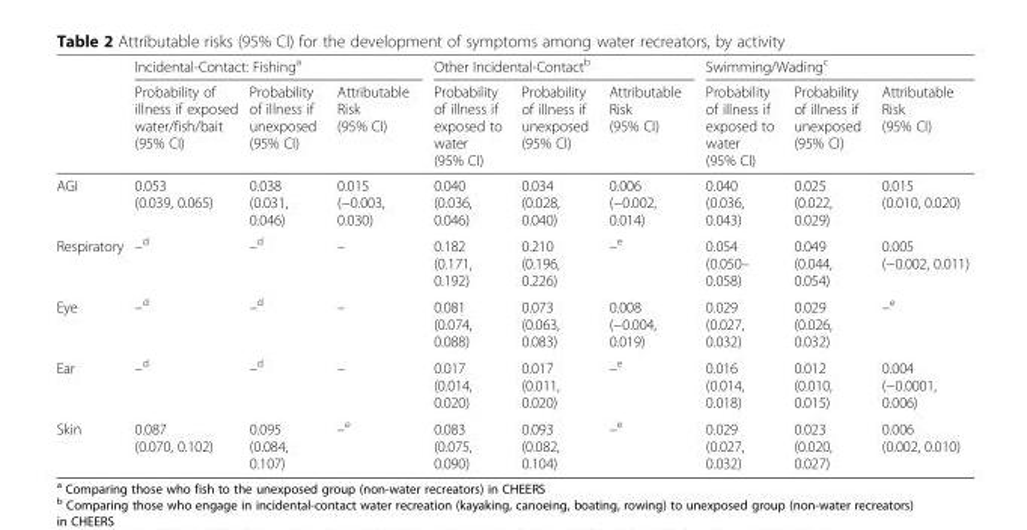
<table><thead><tr><td rowspan="2"></td><td colspan="3">Incidental-Contact: Fishing<sup>a</sup></td><td colspan="3">Other Incidental-Contact<sup>b</sup></td><td colspan="3">Swimming/Wading<sup>c</sup></td></tr><tr><td>Probability of illness if exposed water/fish/bait (95% CI)</td><td>Probability of illness if unexposed (95% CI)</td><td>Attributable Risk (95% CI)</td><td>Probability of illness if exposed to water (95% CI)</td><td>Probability of illness if unexposed (95% CI)</td><td>Attributable Risk (95% CI)</td><td>Probability of illness if exposed to water (95% CI)</td><td>Probability of illness if unexposed (95% CI)</td><td>Attributable Risk (95% CI)</td></tr></thead><tbody><tr><td>AGI</td><td>0.053 (0.039, 0.065)</td><td>0.038 (0.031, 0.046)</td><td>0.015 (−0.003, 0.030)</td><td>0.040 (0.036, 0.046)</td><td>0.034 (0.028, 0.040)</td><td>0.006 (−0.002, 0.014)</td><td>0.040 (0.036, 0.043)</td><td>0.025 (0.022, 0.029)</td><td>0.015 (0.010, 0.020)</td></tr><tr><td>Respiratory</td><td>–d</td><td>–d</td><td>–</td><td>0.182 (0.171, 0.192)</td><td>0.210 (0.196, 0.226)</td><td>–e</td><td>0.054 (0.050– 0.058)</td><td>0.049 (0.044, 0.054)</td><td>0.005 (−0.002, 0.011)</td></tr><tr><td>Eye</td><td>–d</td><td>–d</td><td>–</td><td>0.081 (0.074, 0.088)</td><td>0.073 (0.063, 0.083)</td><td>0.008 (−0.004, 0.019)</td><td>0.029 (0.027, 0.032)</td><td>0.029 (0.026, 0.032)</td><td>–e</td></tr><tr><td>Ear</td><td>–d</td><td>–d</td><td>–</td><td>0.017 (0.014, 0.020)</td><td>0.017 (0.011, 0.020)</td><td>–e</td><td>0.016 (0.014, 0.018)</td><td>0.012 (0.010, 0.015)</td><td>0.004 (−0.0001, 0.006)</td></tr><tr><td>Skin</td><td>0.087 (0.070, 0.102)</td><td>0.095 (0.084, 0.107)</td><td>–e</td><td>0.083 (0.075, 0.090)</td><td>0.093 (0.082, 0.104)</td><td>–e</td><td>0.029 (0.027, 0.032)</td><td>0.023 (0.020, 0.027)</td><td>0.006 (0.002, 0.010)</td></tr></tbody></table>